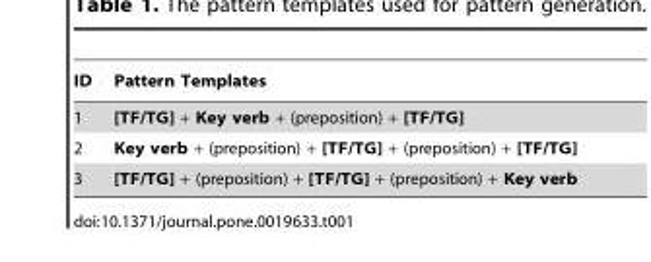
<table><thead><tr><td>ID</td><td>Pattern Templates</td></tr></thead><tbody><tr><td>1</td><td>[TF/TG] + Key verb + (preposition) + [TF/TG]</td></tr><tr><td>2</td><td>Key verb + (preposition) + [TF/TG] + (preposition) + [TF/TG]</td></tr><tr><td>3</td><td>[TF/TG] + (preposition) + [TF/TG] + (preposition) + Key verb</td></tr></tbody></table>